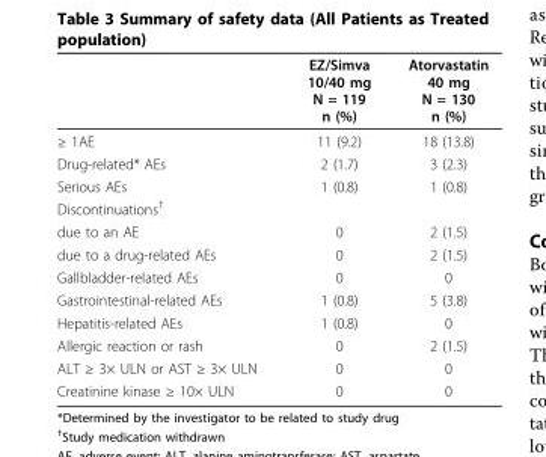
<table><thead><tr><td></td><td>EZ/Simva 10/40 mg N = 119 n (%)</td><td>Atorvastatin 40 mg N = 130 n (%)</td></tr></thead><tbody><tr><td>≥ 1AE</td><td>11 (9.2)</td><td>18 (13.8)</td></tr><tr><td>Drug-related* AEs</td><td>2 (1.7)</td><td>3 (2.3)</td></tr><tr><td>Serious AEs</td><td>1 (0.8)</td><td>1 (0.8)</td></tr><tr><td colspan="3">Discontinuations<sup>†</sup></td></tr><tr><td>due to an AE</td><td>0</td><td>2 (1.5)</td></tr><tr><td>due to a drug-related AEs</td><td>0</td><td>2 (1.5)</td></tr><tr><td>Gallbladder-related AEs</td><td>0</td><td>0</td></tr><tr><td>Gastrointestinal-related AEs</td><td>1 (0.8)</td><td>5 (3.8)</td></tr><tr><td>Hepatitis-related AEs</td><td>1 (0.8)</td><td>0</td></tr><tr><td>Allergic reaction or rash</td><td>0</td><td>2 (1.5)</td></tr><tr><td>ALT ≥ 3× ULN or AST ≥ 3× ULN</td><td>0</td><td>0</td></tr><tr><td>Creatinine kinase ≥ 10× ULN</td><td>0</td><td>0</td></tr></tbody></table>